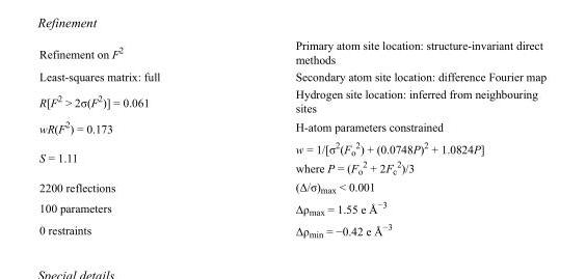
<table><tbody><tr><td>Refinement on F<sup>2</sup></td><td>Primary atom site location: structure-invariant direct methods</td></tr><tr><td>Least-squares matrix: full</td><td>Secondary atom site location: difference Fourier map</td></tr><tr><td>R[F<sup>2</sup> &gt; 2σ(F<sup>2</sup>)] = 0.061</td><td>Hydrogen site location: inferred from neighbouring sites</td></tr><tr><td>wR(F<sup>2</sup>) = 0.173</td><td>H-atom parameters constrained</td></tr><tr><td>S = 1.11</td><td>w = 1/[σ<sup>2</sup>(F<sub>o</sub> <sup>2</sup>) + (0.0748P)<sup>2</sup> + 1.0824P] where P = (F<sub>o</sub> <sup>2</sup> + 2F<sub>c</sub> <sup>2</sup>)/3</td></tr><tr><td>2200 reflections</td><td>(Δ/σ)<sub>max</sub> &lt; 0.001</td></tr><tr><td>100 parameters</td><td>Δρ<sub>max</sub> = 1.55 e Å<sup>−3</sup></td></tr><tr><td>0 restraints</td><td>Δρ<sub>min</sub> = −0.42 e Å<sup>−3</sup></td></tr></tbody></table>